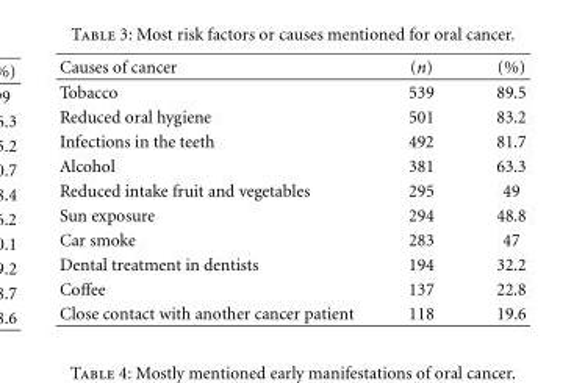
<table><thead><tr><td>Causes of cancer</td><td>(n)</td><td>(%)</td></tr></thead><tbody><tr><td>Tobacco</td><td>539</td><td>89.5</td></tr><tr><td>Reduced oral hygiene</td><td>501</td><td>83.2</td></tr><tr><td>Infections in the teeth</td><td>492</td><td>81.7</td></tr><tr><td>Alcohol</td><td>381</td><td>63.3</td></tr><tr><td>Reduced intake fruit and vegetables</td><td>295</td><td>49</td></tr><tr><td>Sun exposure</td><td>294</td><td>48.8</td></tr><tr><td>Car smoke</td><td>283</td><td>47</td></tr><tr><td>Dental treatment in dentists</td><td>194</td><td>32.2</td></tr><tr><td>Coffee</td><td>137</td><td>22.8</td></tr><tr><td>Close contact with another cancer patient</td><td>118</td><td>19.6</td></tr></tbody></table>